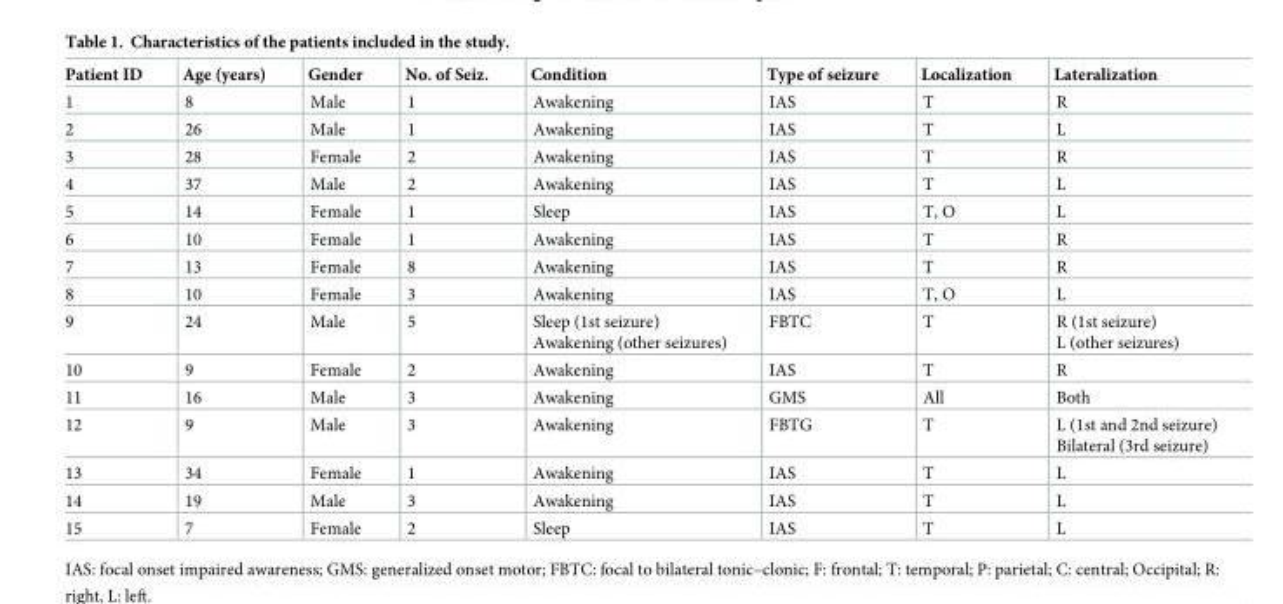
<table><thead><tr><td>Patient ID</td><td>Age (years)</td><td>Gender</td><td>No. of Seiz.</td><td>Condition</td><td>Type of seizure</td><td>Localization</td><td>Lateralization</td></tr></thead><tbody><tr><td>1</td><td>8</td><td>Male</td><td>1</td><td>Awakening</td><td>IAS</td><td>T</td><td>R</td></tr><tr><td>2</td><td>26</td><td>Male</td><td>1</td><td>Awakening</td><td>IAS</td><td>T</td><td>L</td></tr><tr><td>3</td><td>28</td><td>Female</td><td>2</td><td>Awakening</td><td>IAS</td><td>T</td><td>R</td></tr><tr><td>4</td><td>37</td><td>Male</td><td>2</td><td>Awakening</td><td>IAS</td><td>T</td><td>L</td></tr><tr><td>5</td><td>14</td><td>Female</td><td>1</td><td>Sleep</td><td>IAS</td><td>T, O</td><td>L</td></tr><tr><td>6</td><td>10</td><td>Female</td><td>1</td><td>Awakening</td><td>IAS</td><td>T</td><td>R</td></tr><tr><td>7</td><td>13</td><td>Female</td><td>8</td><td>Awakening</td><td>IAS</td><td>T</td><td>R</td></tr><tr><td>8</td><td>10</td><td>Female</td><td>3</td><td>Awakening</td><td>IAS</td><td>T, O</td><td>L</td></tr><tr><td>9</td><td>24</td><td>Male</td><td>5</td><td>Sleep (1st seizure) Awakening (other seizures)</td><td>FBTC</td><td>T</td><td>R (1st seizure) L (other seizures)</td></tr><tr><td>10</td><td>9</td><td>Female</td><td>2</td><td>Awakening</td><td>IAS</td><td>T</td><td>R</td></tr><tr><td>11</td><td>16</td><td>Male</td><td>3</td><td>Awakening</td><td>GMS</td><td>All</td><td>Both</td></tr><tr><td>12</td><td>9</td><td>Male</td><td>3</td><td>Awakening</td><td>FBTG</td><td>T</td><td>L (1st and 2nd seizure) Bilateral (3rd seizure)</td></tr><tr><td>13</td><td>34</td><td>Female</td><td>1</td><td>Awakening</td><td>IAS</td><td>T</td><td>L</td></tr><tr><td>14</td><td>19</td><td>Male</td><td>3</td><td>Awakening</td><td>IAS</td><td>T</td><td>L</td></tr><tr><td>15</td><td>7</td><td>Female</td><td>2</td><td>Sleep</td><td>IAS</td><td>T</td><td>L</td></tr></tbody></table>